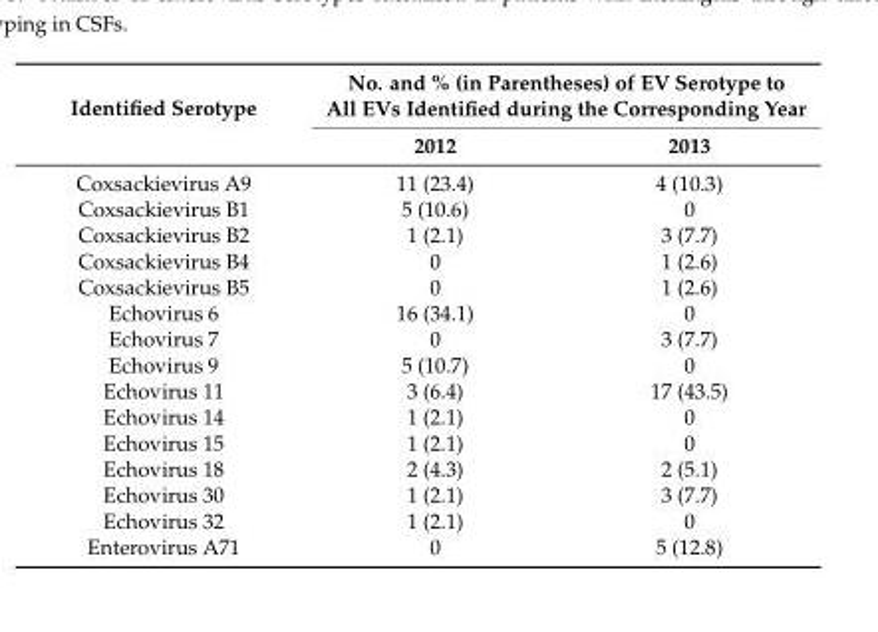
<table><thead><tr><td rowspan="2">Identified Serotype</td><td colspan="2">No. and % (in Parentheses) of EV Serotype to All EVs Identified during the Corresponding Year</td></tr><tr><td>2012</td><td>2013</td></tr></thead><tbody><tr><td>Coxsackievirus A9</td><td>11 (23.4)</td><td>4 (10.3)</td></tr><tr><td>Coxsackievirus B1</td><td>5 (10.6)</td><td>0</td></tr><tr><td>Coxsackievirus B2</td><td>1 (2.1)</td><td>3 (7.7)</td></tr><tr><td>Coxsackievirus B4</td><td>0</td><td>1 (2.6)</td></tr><tr><td>Coxsackievirus B5</td><td>0</td><td>1 (2.6)</td></tr><tr><td>Echovirus 6</td><td>16 (34.1)</td><td>0</td></tr><tr><td>Echovirus 7</td><td>0</td><td>3 (7.7)</td></tr><tr><td>Echovirus 9</td><td>5 (10.7)</td><td>0</td></tr><tr><td>Echovirus 11</td><td>3 (6.4)</td><td>17 (43.5)</td></tr><tr><td>Echovirus 14</td><td>1 (2.1)</td><td>0</td></tr><tr><td>Echovirus 15</td><td>1 (2.1)</td><td>0</td></tr><tr><td>Echovirus 18</td><td>2 (4.3)</td><td>2 (5.1)</td></tr><tr><td>Echovirus 30</td><td>1 (2.1)</td><td>3 (7.7)</td></tr><tr><td>Echovirus 32</td><td>1 (2.1)</td><td>0</td></tr><tr><td>Enterovirus A71</td><td>0</td><td>5 (12.8)</td></tr></tbody></table>